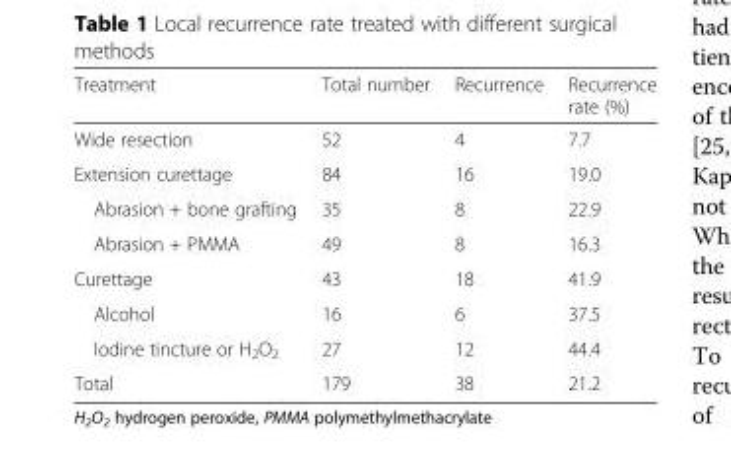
<table><thead><tr><td>Treatment</td><td>Total number</td><td>Recurrence</td><td>Recurrence rate (%)</td></tr></thead><tbody><tr><td>Wide resection</td><td>52</td><td>4</td><td>7.7</td></tr><tr><td>Extension curettage</td><td>84</td><td>16</td><td>19.0</td></tr><tr><td>Abrasion + bone grafting</td><td>35</td><td>8</td><td>22.9</td></tr><tr><td>Abrasion + PMMA</td><td>49</td><td>8</td><td>16.3</td></tr><tr><td>Curettage</td><td>43</td><td>18</td><td>41.9</td></tr><tr><td>Alcohol</td><td>16</td><td>6</td><td>37.5</td></tr><tr><td>Iodine tincture or H<sub>2</sub>O<sub>2</sub></td><td>27</td><td>12</td><td>44.4</td></tr><tr><td>Total</td><td>179</td><td>38</td><td>21.2</td></tr></tbody></table>